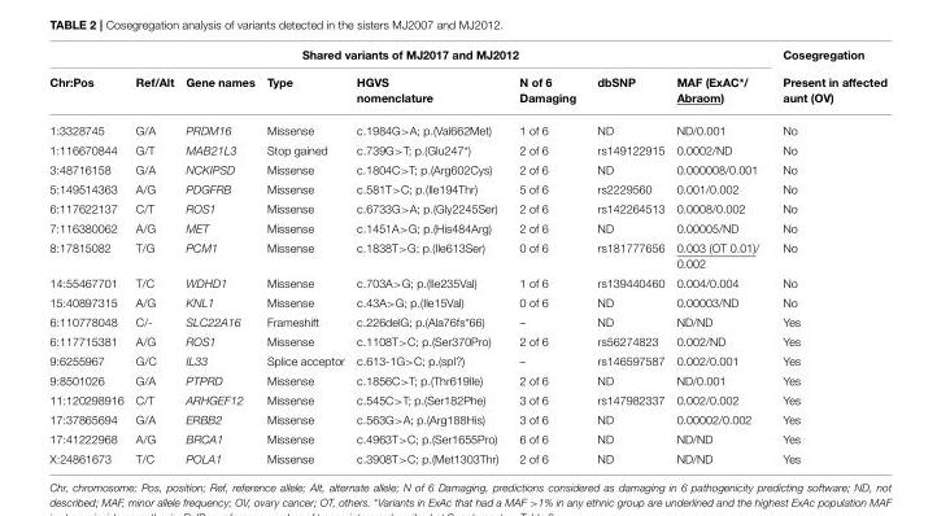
<table><thead><tr><td colspan="8">Shared variants of MJ2017 and MJ2012</td><td rowspan="2">Cosegregation Present in affected aunt (OV)</td></tr><tr><td>Chr:Pos</td><td>Ref/Alt</td><td>Gene names</td><td>Type</td><td>HGVS nomenclature</td><td>N of 6 Damaging</td><td>dbSNP</td><td>MAF (ExAC*/ Abraom)</td></tr></thead><tbody><tr><td>1:3328745</td><td>G/A</td><td>PRDM16</td><td>Missense</td><td>c.1984G&gt;A; p.(Val662Met)</td><td>1 of 6</td><td>ND</td><td>ND/0.001</td><td>No</td></tr><tr><td>1:116670844</td><td>G/T</td><td>MAB21L3</td><td>Stop gained</td><td>c.739G&gt;T; p.(Glu247*)</td><td>2 of 6</td><td>rs149122915</td><td>0.0002/ND</td><td>No</td></tr><tr><td>3:48716158</td><td>G/A</td><td>NCKIPSD</td><td>Missense</td><td>c.1804C&gt;T; p.(Arg602Cys)</td><td>2 of 6</td><td>ND</td><td>0.000008/0.001</td><td>No</td></tr><tr><td>5:149514363</td><td>A/G</td><td>PDGFRB</td><td>Missense</td><td>c.581T&gt;C; p.(Ile194Thr)</td><td>5 of 6</td><td>rs2229560</td><td>0.001/0.002</td><td>No</td></tr><tr><td>6:117622137</td><td>C/T</td><td>ROS1</td><td>Missense</td><td>c.6733G&gt;A; p.(Gly2245Ser)</td><td>2 of 6</td><td>rs142264513</td><td>0.0008/0.002</td><td>No</td></tr><tr><td>7:116380062</td><td>A/G</td><td>MET</td><td>Missense</td><td>c.1451A&gt;G; p.(His484Arg)</td><td>2 of 6</td><td>ND</td><td>0.00005/ND</td><td>No</td></tr><tr><td>8:17815082</td><td>T/G</td><td>PCM1</td><td>Missense</td><td>c.1838T&gt;G; p.(Ile613Ser)</td><td>0 of 6</td><td>rs181777656</td><td>0.003 (OT 0.01)/ 0.002</td><td>No</td></tr><tr><td>14:55467701</td><td>T/C</td><td>WDHD1</td><td>Missense</td><td>c.703A&gt;G; p.(Ile235Val)</td><td>1 of 6</td><td>rs139440460</td><td>0.004/0.004</td><td>No</td></tr><tr><td>15:40897315</td><td>A/G</td><td>KNL1</td><td>Missense</td><td>c.43A&gt;G; p.(Ile15Val)</td><td>0 of 6</td><td>ND</td><td>0.00003/ND</td><td>No</td></tr><tr><td>6:110778048</td><td>C/-</td><td>SLC22A16</td><td>Frameshift</td><td>c.226delG; p.(Ala76fs*66)</td><td>–</td><td>ND</td><td>ND/ND</td><td>Yes</td></tr><tr><td>6:117715381</td><td>A/G</td><td>ROS1</td><td>Missense</td><td>c.1108T&gt;C; p.(Ser370Pro)</td><td>2 of 6</td><td>rs56274823</td><td>0.002/ND</td><td>Yes</td></tr><tr><td>9:6255967</td><td>G/C</td><td>IL33</td><td>Splice acceptor</td><td>c.613-1G&gt;C; p.(spl?)</td><td>–</td><td>rs146597587</td><td>0.002/0.001</td><td>Yes</td></tr><tr><td>9:8501026</td><td>G/A</td><td>PTPRD</td><td>Missense</td><td>c.1856C&gt;T; p.(Thr619Ile)</td><td>2 of 6</td><td>ND</td><td>ND/0.001</td><td>Yes</td></tr><tr><td>11:120298916</td><td>C/T</td><td>ARHGEF12</td><td>Missense</td><td>c.545C&gt;T; p.(Ser182Phe)</td><td>3 of 6</td><td>rs147982337</td><td>0.002/0.002</td><td>Yes</td></tr><tr><td>17:37865694</td><td>G/A</td><td>ERBB2</td><td>Missense</td><td>c.563G&gt;A; p.(Arg188His)</td><td>3 of 6</td><td>ND</td><td>0.00002/0.002</td><td>Yes</td></tr><tr><td>17:41222968</td><td>A/G</td><td>BRCA1</td><td>Missense</td><td>c.4963T&gt;C; p.(Ser1655Pro)</td><td>6 of 6</td><td>ND</td><td>ND/ND</td><td>Yes</td></tr><tr><td>X:24861673</td><td>T/C</td><td>POLA1</td><td>Missense</td><td>c.3908T&gt;C; p.(Met1303Thr)</td><td>2 of 6</td><td>ND</td><td>ND/ND</td><td>Yes</td></tr></tbody></table>